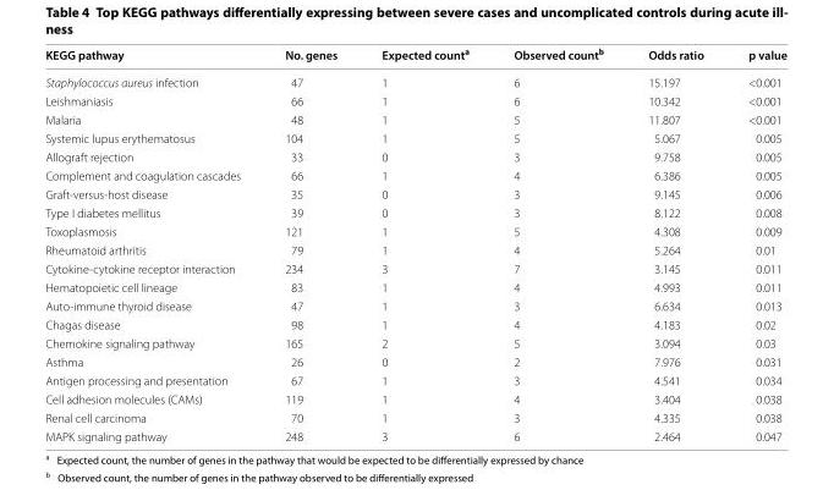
<table><thead><tr><td>KEGG pathway</td><td>No. genes</td><td>Expected count<sup>a</sup></td><td>Observed count<sup>b</sup></td><td>Odds ratio</td><td>p value</td></tr></thead><tbody><tr><td>Staphylococcus aureus infection</td><td>47</td><td>1</td><td>6</td><td>15.197</td><td>&lt;0.001</td></tr><tr><td>Leishmaniasis</td><td>66</td><td>1</td><td>6</td><td>10.342</td><td>&lt;0.001</td></tr><tr><td>Malaria</td><td>48</td><td>1</td><td>5</td><td>11.807</td><td>&lt;0.001</td></tr><tr><td>Systemic lupus erythematosus</td><td>104</td><td>1</td><td>5</td><td>5.067</td><td>0.005</td></tr><tr><td>Allograft rejection</td><td>33</td><td>0</td><td>3</td><td>9.758</td><td>0.005</td></tr><tr><td>Complement and coagulation cascades</td><td>66</td><td>1</td><td>4</td><td>6.386</td><td>0.005</td></tr><tr><td>Graft-versus-host disease</td><td>35</td><td>0</td><td>3</td><td>9.145</td><td>0.006</td></tr><tr><td>Type I diabetes mellitus</td><td>39</td><td>0</td><td>3</td><td>8.122</td><td>0.008</td></tr><tr><td>Toxoplasmosis</td><td>121</td><td>1</td><td>5</td><td>4.308</td><td>0.009</td></tr><tr><td>Rheumatoid arthritis</td><td>79</td><td>1</td><td>4</td><td>5.264</td><td>0.01</td></tr><tr><td>Cytokine-cytokine receptor interaction</td><td>234</td><td>3</td><td>7</td><td>3.145</td><td>0.011</td></tr><tr><td>Hematopoietic cell lineage</td><td>83</td><td>1</td><td>4</td><td>4.993</td><td>0.011</td></tr><tr><td>Auto-immune thyroid disease</td><td>47</td><td>1</td><td>3</td><td>6.634</td><td>0.013</td></tr><tr><td>Chagas disease</td><td>98</td><td>1</td><td>4</td><td>4.183</td><td>0.02</td></tr><tr><td>Chemokine signaling pathway</td><td>165</td><td>2</td><td>5</td><td>3.094</td><td>0.03</td></tr><tr><td>Asthma</td><td>26</td><td>0</td><td>2</td><td>7.976</td><td>0.031</td></tr><tr><td>Antigen processing and presentation</td><td>67</td><td>1</td><td>3</td><td>4.541</td><td>0.034</td></tr><tr><td>Cell adhesion molecules (CAMs)</td><td>119</td><td>1</td><td>4</td><td>3.404</td><td>0.038</td></tr><tr><td>Renal cell carcinoma</td><td>70</td><td>1</td><td>3</td><td>4.335</td><td>0.038</td></tr><tr><td>MAPK signaling pathway</td><td>248</td><td>3</td><td>6</td><td>2.464</td><td>0.047</td></tr></tbody></table>